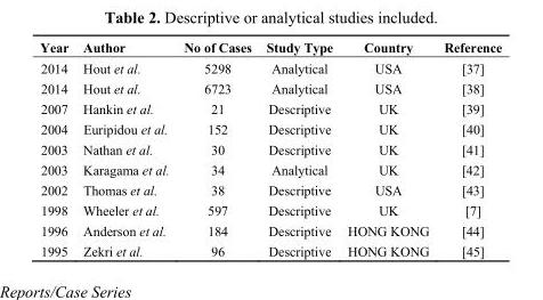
<table><thead><tr><td>Year</td><td>Author</td><td>No of Cases</td><td>Study Type</td><td>Country</td><td>Reference</td></tr></thead><tbody><tr><td>2014</td><td>Hout et al.</td><td>5298</td><td>Analytical</td><td>USA</td><td>[37]</td></tr><tr><td>2014</td><td>Hout et al.</td><td>6723</td><td>Analytical</td><td>USA</td><td>[38]</td></tr><tr><td>2007</td><td>Hankin et al.</td><td>21</td><td>Descriptive</td><td>UK</td><td>[39]</td></tr><tr><td>2004</td><td>Euripidou et al.</td><td>152</td><td>Descriptive</td><td>UK</td><td>[40]</td></tr><tr><td>2003</td><td>Nathan et al.</td><td>30</td><td>Descriptive</td><td>UK</td><td>[41]</td></tr><tr><td>2003</td><td>Karagama et al.</td><td>34</td><td>Analytical</td><td>UK</td><td>[42]</td></tr><tr><td>2002</td><td>Thomas et al.</td><td>38</td><td>Descriptive</td><td>USA</td><td>[43]</td></tr><tr><td>1998</td><td>Wheeler et al.</td><td>597</td><td>Descriptive</td><td>UK</td><td>[7]</td></tr><tr><td>1996</td><td>Anderson et al.</td><td>184</td><td>Descriptive</td><td>HONG KONG</td><td>[44]</td></tr><tr><td>1995</td><td>Zekri et al.</td><td>96</td><td>Descriptive</td><td>HONG KONG</td><td>[45]</td></tr></tbody></table>